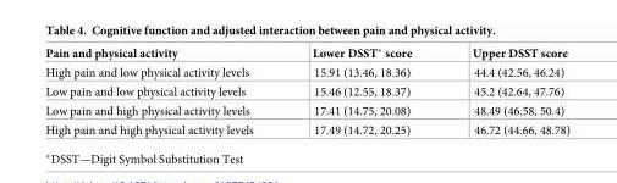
<table><thead><tr><td>Pain and physical activity</td><td>Lower DSST* score</td><td>Upper DSST score</td></tr></thead><tbody><tr><td>High pain and low physical activity levels</td><td>15.91 (13.46, 18.36)</td><td>44.4 (42.56, 46.24)</td></tr><tr><td>Low pain and low physical activity levels</td><td>15.46 (12.55, 18.37)</td><td>45.2 (42.64, 47.76)</td></tr><tr><td>Low pain and high physical activity levels</td><td>17.41 (14.75, 20.08)</td><td>48.49 (46.58, 50.4)</td></tr><tr><td>High pain and high physical activity levels</td><td>17.49 (14.72, 20.25)</td><td>46.72 (44.66, 48.78)</td></tr></tbody></table>